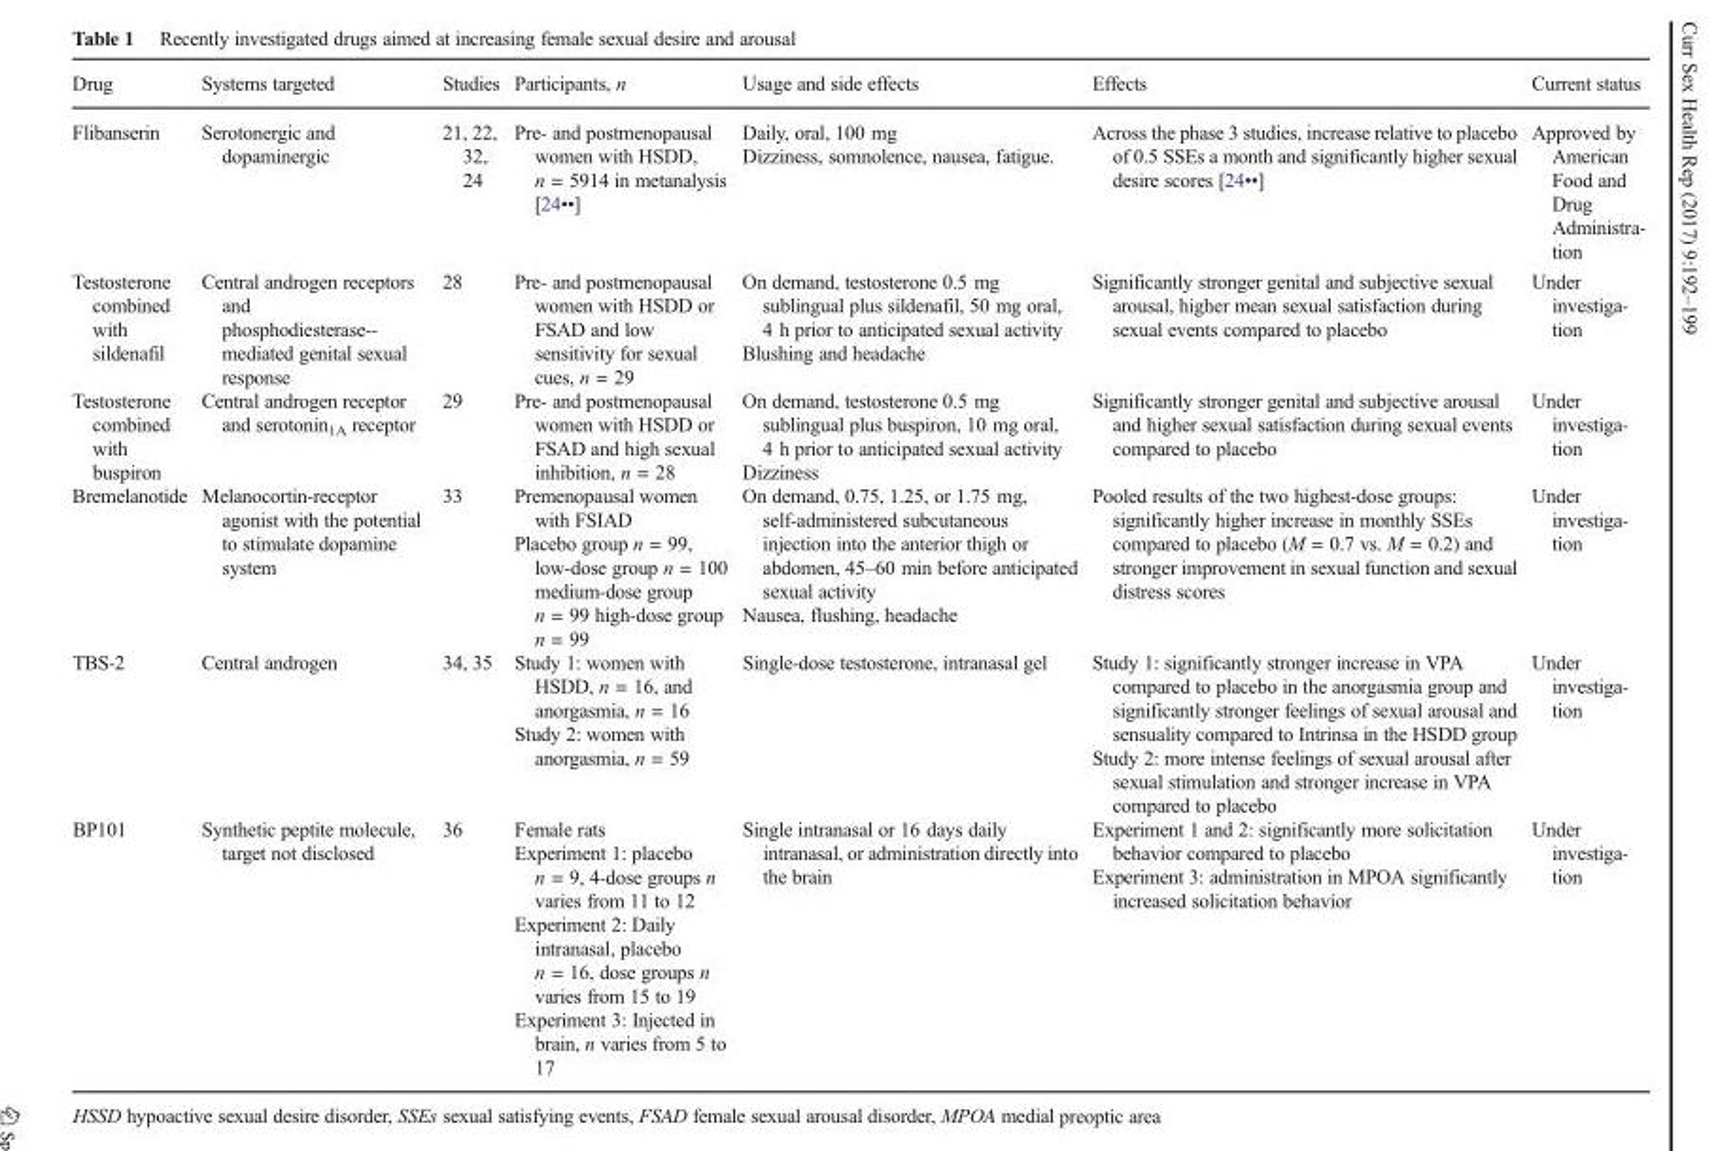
<table><thead><tr><td>Drug</td><td>Systems targeted</td><td>Studies</td><td>Participants, n</td><td>Usage and side effects</td><td>Effects</td><td>Current status</td></tr></thead><tbody><tr><td>Flibanserin</td><td>Serotonergic and dopaminergic</td><td>21, 22, 32, 24</td><td>Pre- and postmenopausal women with HSDD, n = 5914 in metanalysis [24••]</td><td>Daily, oral, 100 mg Dizziness, somnolence, nausea, fatigue.</td><td>Across the phase 3 studies, increase relative to placebo of 0.5 SSEs a month and significantly higher sexual desire scores [24••]</td><td>Approved by American Food and Drug Administra- tion</td></tr><tr><td>Testosterone combined with sildenafil</td><td>Central androgen receptors and phosphodiesterase-- mediated genital sexual response</td><td>28</td><td>Pre- and postmenopausal women with HSDD or FSAD and low sensitivity for sexual cues, n = 29</td><td>On demand, testosterone 0.5 mg sublingual plus sildenafil, 50 mg oral, 4 h prior to anticipated sexual activity Blushing and headache</td><td>Significantly stronger genital and subjective sexual arousal, higher mean sexual satisfaction during sexual events compared to placebo</td><td>Under investiga- tion</td></tr><tr><td>Testosterone combined with buspiron</td><td>Central androgen receptor and serotonin<sub>1A</sub> receptor</td><td>29</td><td>Pre- and postmenopausal women with HSDD or FSAD and high sexual inhibition, n = 28</td><td>On demand, testosterone 0.5 mg sublingual plus buspiron, 10 mg oral, 4 h prior to anticipated sexual activity Dizziness</td><td>Significantly stronger genital and subjective arousal and higher sexual satisfaction during sexual events compared to placebo</td><td>Under investiga- tion</td></tr><tr><td>Bremelanotide</td><td>Melanocortin-receptor agonist with the potential to stimulate dopamine system</td><td>33</td><td>Premenopausal women with FSIAD Placebo group n = 99, low-dose group n = 100 medium-dose group n = 99 high-dose group n = 99</td><td>On demand, 0.75, 1.25, or 1.75 mg, self-administered subcutaneous injection into the anterior thigh or abdomen, 45–60 min before anticipated sexual activity Nausea, flushing, headache</td><td>Pooled results of the two highest-dose groups: significantly higher increase in monthly SSEs compared to placebo (M = 0.7 vs. M = 0.2) and stronger improvement in sexual function and sexual distress scores</td><td>Under investiga- tion</td></tr><tr><td>TBS-2</td><td>Central androgen</td><td>34, 35</td><td>Study 1: women with HSDD, n = 16, and anorgasmia, n = 16 Study 2: women with anorgasmia, n = 59</td><td>Single-dose testosterone, intranasal gel</td><td>Study 1: significantly stronger increase in VPA compared to placebo in the anorgasmia group and significantly stronger feelings of sexual arousal and sensuality compared to Intrinsa in the HSDD group Study 2: more intense feelings of sexual arousal after sexual stimulation and stronger increase in VPA compared to placebo</td><td>Under investiga- tion</td></tr><tr><td>BP101</td><td>Synthetic peptite molecule, target not disclosed</td><td>36</td><td>Female rats Experiment 1: placebo n = 9, 4-dose groups n varies from 11 to 12 Experiment 2: Daily intranasal, placebo n = 16, dose groups n varies from 15 to 19 Experiment 3: Injected in brain, n varies from 5 to 17</td><td>Single intranasal or 16 days daily intranasal, or administration directly into the brain</td><td>Experiment 1 and 2: significantly more solicitation behavior compared to placebo Experiment 3: administration in MPOA significantly increased solicitation behavior</td><td>Under investiga- tion</td></tr></tbody></table>